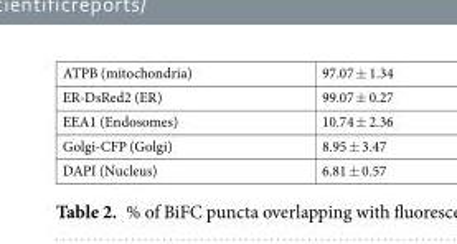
<table><tbody><tr><td>ATPB (mitochondria)</td><td>97.07 ± 1.34</td></tr><tr><td>ER-DsRed2 (ER)</td><td>99.07 ± 0.27</td></tr><tr><td>EEA1 (Endosomes)</td><td>10.74 ± 2.36</td></tr><tr><td>Golgi-CFP (Golgi)</td><td>8.95 ± 3.47</td></tr><tr><td>DAPI (Nucleus)</td><td>6.81 ± 0.57</td></tr></tbody></table>